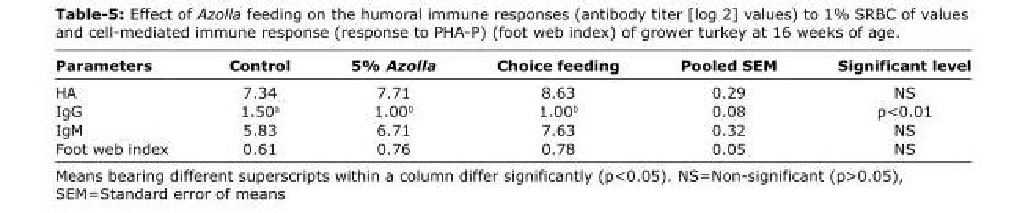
<table><thead><tr><td>Parameters</td><td>Control</td><td>5% Azolla</td><td>Choice feeding</td><td>Pooled SEM</td><td>Significant level</td></tr></thead><tbody><tr><td>HA</td><td>7.34</td><td>7.71</td><td>8.63</td><td>0.29</td><td>NS</td></tr><tr><td>IgG</td><td>1.50<sup>a</sup></td><td>1.00<sup>b</sup></td><td>1.00<sup>b</sup></td><td>0.08</td><td>p&lt;0.01</td></tr><tr><td>IgM</td><td>5.83</td><td>6.71</td><td>7.63</td><td>0.32</td><td>NS</td></tr><tr><td>Foot web index</td><td>0.61</td><td>0.76</td><td>0.78</td><td>0.05</td><td>NS</td></tr></tbody></table>